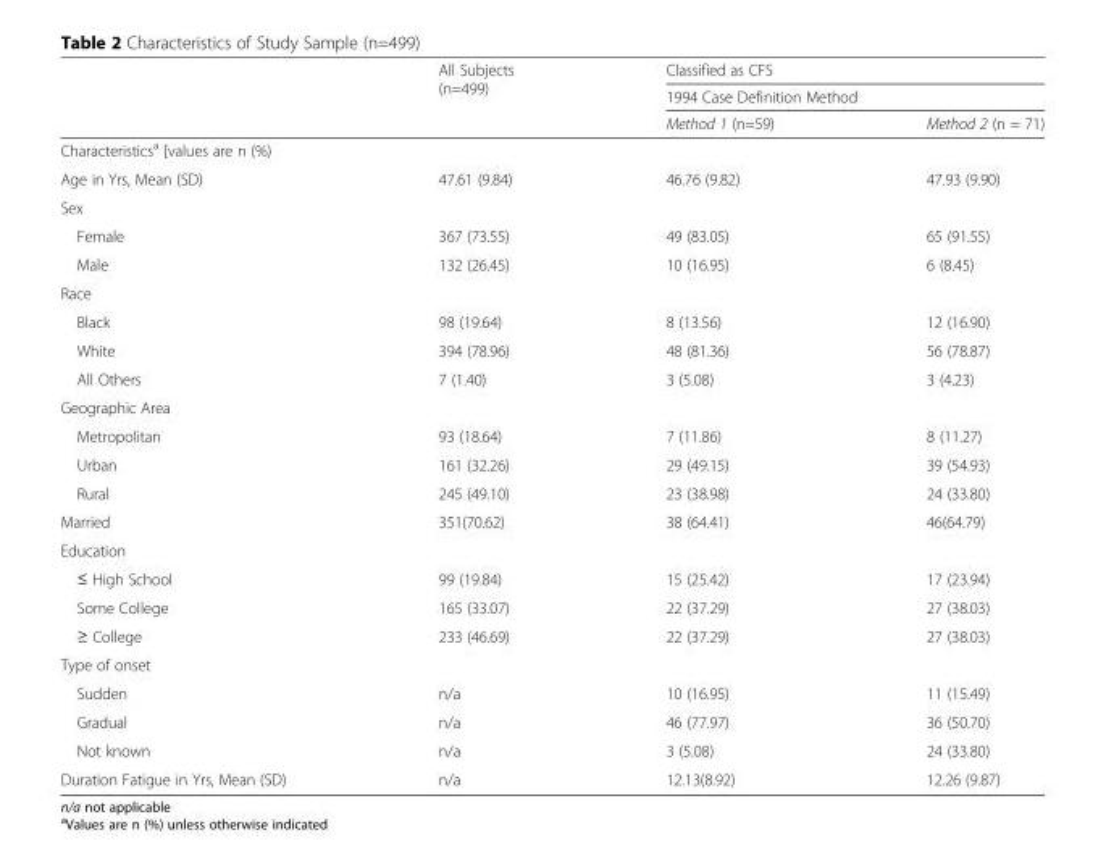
<table><thead><tr><td rowspan="3"></td><td rowspan="3">All Subjects (n=499)</td><td rowspan="2" colspan="2">Classified as CFS 1994 Case Definition Method</td></tr><tr></tr><tr><td>Method 1 (n=59)</td><td>Method 2 (n = 71)</td></tr></thead><tbody><tr><td colspan="4">Characteristics<sup>a</sup> [values are n (%)</td></tr><tr><td>Age in Yrs, Mean (SD)</td><td>47.61 (9.84)</td><td>46.76 (9.82)</td><td>47.93 (9.90)</td></tr><tr><td colspan="4">Sex</td></tr><tr><td>Female</td><td>367 (73.55)</td><td>49 (83.05)</td><td>65 (91.55)</td></tr><tr><td>Male</td><td>132 (26.45)</td><td>10 (16.95)</td><td>6 (8.45)</td></tr><tr><td colspan="4">Race</td></tr><tr><td>Black</td><td>98 (19.64)</td><td>8 (13.56)</td><td>12 (16.90)</td></tr><tr><td>White</td><td>394 (78.96)</td><td>48 (81.36)</td><td>56 (78.87)</td></tr><tr><td>All Others</td><td>7 (1.40)</td><td>3 (5.08)</td><td>3 (4.23)</td></tr><tr><td colspan="4">Geographic Area</td></tr><tr><td>Metropolitan</td><td>93 (18.64)</td><td>7 (11.86)</td><td>8 (11.27)</td></tr><tr><td>Urban</td><td>161 (32.26)</td><td>29 (49.15)</td><td>39 (54.93)</td></tr><tr><td>Rural</td><td>245 (49.10)</td><td>23 (38.98)</td><td>24 (33.80)</td></tr><tr><td>Married</td><td>351(70.62)</td><td>38 (64.41)</td><td>46(64.79)</td></tr><tr><td colspan="4">Education</td></tr><tr><td>≤ High School</td><td>99 (19.84)</td><td>15 (25.42)</td><td>17 (23.94)</td></tr><tr><td>Some College</td><td>165 (33.07)</td><td>22 (37.29)</td><td>27 (38.03)</td></tr><tr><td>≥ College</td><td>233 (46.69)</td><td>22 (37.29)</td><td>27 (38.03)</td></tr><tr><td colspan="4">Type of onset</td></tr><tr><td>Sudden</td><td>n/a</td><td>10 (16.95)</td><td>11 (15.49)</td></tr><tr><td>Gradual</td><td>n/a</td><td>46 (77.97)</td><td>36 (50.70)</td></tr><tr><td>Not known</td><td>n/a</td><td>3 (5.08)</td><td>24 (33.80)</td></tr><tr><td>Duration Fatigue in Yrs, Mean (SD)</td><td>n/a</td><td>12.13(8.92)</td><td>12.26 (9.87)</td></tr></tbody></table>